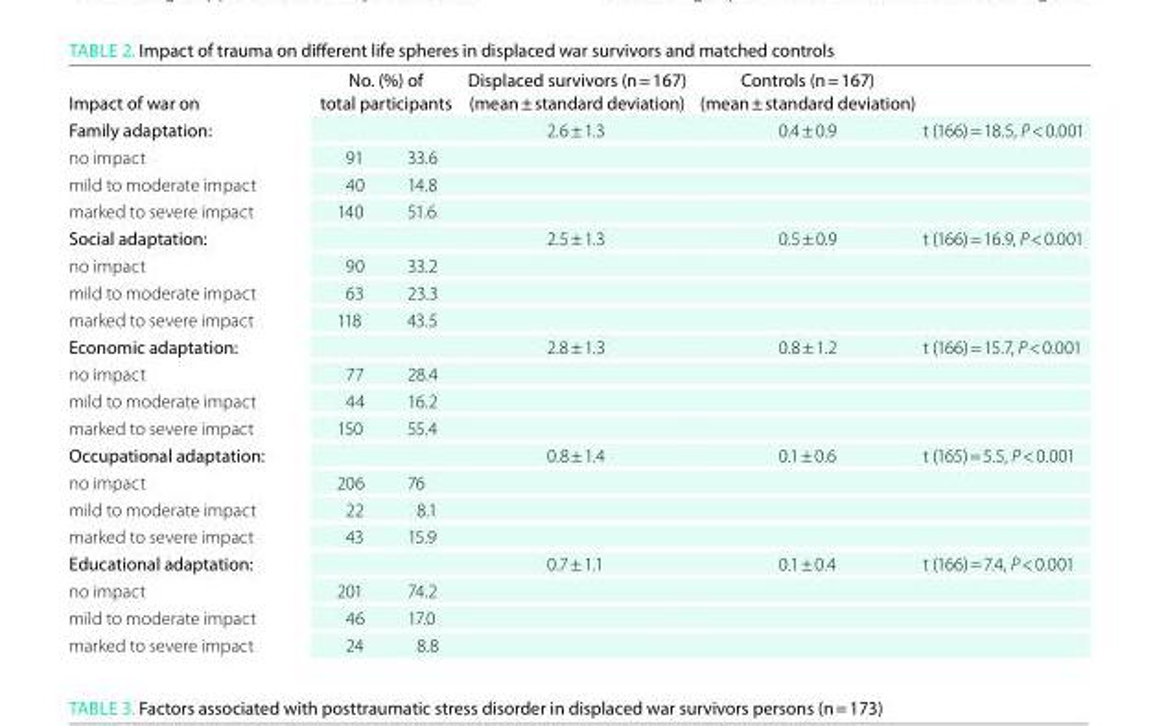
<table><thead><tr><td rowspan="2">Impact of war on Family adaptation:</td><td colspan="2">No. (%) of total participants</td><td rowspan="2">displaced survivors (n = 167) (mean ± standard deviation) 2.6 ± 1.3</td><td rowspan="2">Controls (n = 167) (mean ± standard deviation) 0.4 ± 0.9</td><td rowspan="2">t (166) = 18.5, P &lt; 0.001</td></tr><tr><td></td><td></td></tr></thead><tbody><tr><td>no impact</td><td>91</td><td>33.6</td><td></td><td></td><td></td></tr><tr><td>mild to moderate impact</td><td>40</td><td>14.8</td><td></td><td></td><td></td></tr><tr><td>marked to severe impact</td><td>140</td><td>51.6</td><td></td><td></td><td></td></tr><tr><td>Social adaptation:</td><td></td><td></td><td>2.5 ± 1.3</td><td>0.5 ± 0.9</td><td>t (166) = 16.9, P &lt; 0.001</td></tr><tr><td>no impact</td><td>90</td><td>33.2</td><td></td><td></td><td></td></tr><tr><td>mild to moderate impact</td><td>63</td><td>23.3</td><td></td><td></td><td></td></tr><tr><td>marked to severe impact</td><td>118</td><td>43.5</td><td></td><td></td><td></td></tr><tr><td>Economic adaptation:</td><td></td><td></td><td>2.8 ± 1.3</td><td>0.8 ± 1.2</td><td>t (166) = 15.7, P &lt; 0.001</td></tr><tr><td>no impact</td><td>77</td><td>28.4</td><td></td><td></td><td></td></tr><tr><td>mild to moderate impact</td><td>44</td><td>16.2</td><td></td><td></td><td></td></tr><tr><td>marked to severe impact</td><td>150</td><td>55.4</td><td></td><td></td><td></td></tr><tr><td>occupational adaptation:</td><td></td><td></td><td>0.8 ± 1.4</td><td>0.1 ± 0.6</td><td>t (165) = 5.5, P &lt; 0.001</td></tr><tr><td>no impact</td><td>206</td><td>76</td><td></td><td></td><td></td></tr><tr><td>mild to moderate impact</td><td>22</td><td>8.1</td><td></td><td></td><td></td></tr><tr><td>marked to severe impact</td><td>43</td><td>15.9</td><td></td><td></td><td></td></tr><tr><td>Educational adaptation:</td><td></td><td></td><td>0.7 ± 1.1</td><td>0.1 ± 0.4</td><td>t (166) = 7.4, P &lt; 0.001</td></tr><tr><td>no impact</td><td>201</td><td>74.2</td><td></td><td></td><td></td></tr><tr><td>mild to moderate impact</td><td>46</td><td>17.0</td><td></td><td></td><td></td></tr><tr><td>marked to severe impact</td><td>24</td><td>8.8</td><td></td><td></td><td></td></tr></tbody></table>